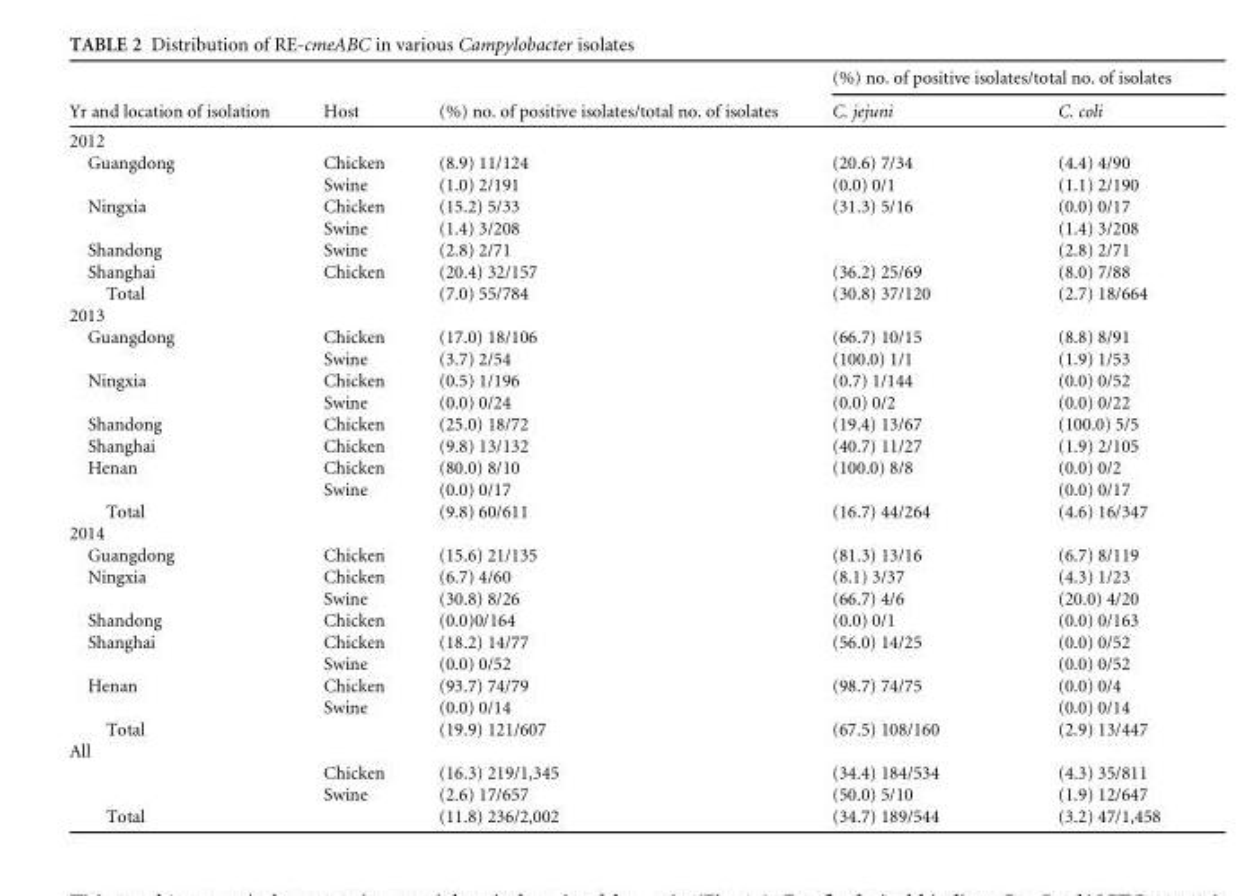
<table><thead><tr><td rowspan="2">Yr and location of isolation</td><td rowspan="2">Host</td><td rowspan="2">(%) no. of positive isolates/total no. of isolates</td><td colspan="2">(%) no. of positive isolates/total no. of isolates</td></tr><tr><td>C. jejuni</td><td>C. coli</td></tr></thead><tbody><tr><td colspan="5">2012</td></tr><tr><td rowspan="2">Guangdong</td><td>Chicken</td><td>(8.9) 11/124</td><td>(20.6) 7/34</td><td>(4.4) 4/90</td></tr><tr><td>Swine</td><td>(1.0) 2/191</td><td>(0.0) 0/1</td><td>(1.1) 2/190</td></tr><tr><td rowspan="2">Ningxia</td><td>Chicken</td><td>(15.2) 5/33</td><td>(31.3) 5/16</td><td>(0.0) 0/17</td></tr><tr><td>Swine</td><td>(1.4) 3/208</td><td></td><td>(1.4) 3/208</td></tr><tr><td>Shandong</td><td>Swine</td><td>(2.8) 2/71</td><td></td><td>(2.8) 2/71</td></tr><tr><td>Shanghai</td><td>Chicken</td><td>(20.4) 32/157</td><td>(36.2) 25/69</td><td>(8.0) 7/88</td></tr><tr><td>Total</td><td></td><td>(7.0) 55/784</td><td>(30.8) 37/120</td><td>(2.7) 18/664</td></tr><tr><td colspan="5">2013</td></tr><tr><td rowspan="2">Guangdong</td><td>Chicken</td><td>(17.0) 18/106</td><td>(66.7) 10/15</td><td>(8.8) 8/91</td></tr><tr><td>Swine</td><td>(3.7) 2/54</td><td>(100.0) 1/1</td><td>(1.9) 1/53</td></tr><tr><td rowspan="2">Ningxia</td><td>Chicken</td><td>(0.5) 1/196</td><td>(0.7) 1/144</td><td>(0.0) 0/52</td></tr><tr><td>Swine</td><td>(0.0) 0/24</td><td>(0.0) 0/2</td><td>(0.0) 0/22</td></tr><tr><td>Shandong</td><td>Chicken</td><td>(25.0) 18/72</td><td>(19.4) 13/67</td><td>(100.0) 5/5</td></tr><tr><td>Shanghai</td><td>Chicken</td><td>(9.8) 13/132</td><td>(40.7) 11/27</td><td>(1.9) 2/105</td></tr><tr><td rowspan="2">Henan</td><td>Chicken</td><td>(80.0) 8/10</td><td>(100.0) 8/8</td><td>(0.0) 0/2</td></tr><tr><td>Swine</td><td>(0.0) 0/17</td><td></td><td>(0.0) 0/17</td></tr><tr><td>Total</td><td></td><td>(9.8) 60/611</td><td>(16.7) 44/264</td><td>(4.6) 16/347</td></tr><tr><td colspan="5">2014</td></tr><tr><td>Guangdong</td><td>Chicken</td><td>(15.6) 21/135</td><td>(81.3) 13/16</td><td>(6.7) 8/119</td></tr><tr><td rowspan="2">Ningxia</td><td>Chicken</td><td>(6.7) 4/60</td><td>(8.1) 3/37</td><td>(4.3) 1/23</td></tr><tr><td>Swine</td><td>(30.8) 8/26</td><td>(66.7) 4/6</td><td>(20.0) 4/20</td></tr><tr><td>Shandong</td><td>Chicken</td><td>(0.0)0/164</td><td>(0.0) 0/1</td><td>(0.0) 0/163</td></tr><tr><td rowspan="2">Shanghai</td><td>Chicken</td><td>(18.2) 14/77</td><td>(56.0) 14/25</td><td>(0.0) 0/52</td></tr><tr><td>Swine</td><td>(0.0) 0/52</td><td></td><td>(0.0) 0/52</td></tr><tr><td rowspan="2">Henan</td><td>Chicken</td><td>(93.7) 74/79</td><td>(98.7) 74/75</td><td>(0.0) 0/4</td></tr><tr><td>Swine</td><td>(0.0) 0/14</td><td></td><td>(0.0) 0/14</td></tr><tr><td>Total</td><td></td><td>(19.9) 121/607</td><td>(67.5) 108/160</td><td>(2.9) 13/447</td></tr><tr><td colspan="5">All</td></tr><tr><td></td><td>Chicken</td><td>(16.3) 219/1,345</td><td>(34.4) 184/534</td><td>(4.3) 35/811</td></tr><tr><td></td><td>Swine</td><td>(2.6) 17/657</td><td>(50.0) 5/10</td><td>(1.9) 12/647</td></tr><tr><td>Total</td><td></td><td>(11.8) 236/2,002</td><td>(34.7) 189/544</td><td>(3.2) 47/1,458</td></tr></tbody></table>